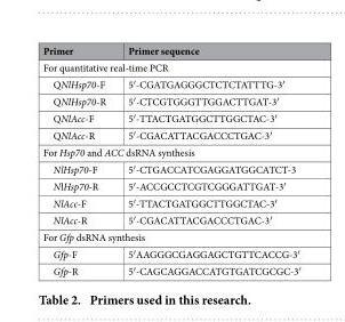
<table><thead><tr><td>Primer</td><td>Primer sequence</td></tr></thead><tbody><tr><td colspan="2">For quantitative real-time PCR</td></tr><tr><td>QNlHsp70-F</td><td>5′ -CGATGAGGGCTCTCTATTTG-3′</td></tr><tr><td>QNlHsp70-R</td><td>5′ -CTCGTGGGTTGGACTTGAT-3′</td></tr><tr><td>QNlAcc-F</td><td>5′ -TTACTGATGGCTTGGCTAC-3′</td></tr><tr><td>QNlAcc-R</td><td>5′ -CGACATTACGACCCTGAC-3′</td></tr><tr><td colspan="2">For Hsp70 and ACC dsRNA synthesis</td></tr><tr><td>NlHsp70-F</td><td>5′ -CTGACCATCGAGGATGGCATCT-3</td></tr><tr><td>NlHsp70-R</td><td>5′ -ACCGCCTCGTCGGGATTGAT-3′</td></tr><tr><td>NlAcc-F</td><td>5′ -TTACTGATGGCTTGGCTAC-3′</td></tr><tr><td>NlAcc-R</td><td>5′ -CGACATTACGACCCTGAC-3′</td></tr><tr><td colspan="2">For Gfp dsRNA synthesis</td></tr><tr><td>Gfp-F</td><td>5′ AAGGGCGAGGAGCTGTTCACCG-3′</td></tr><tr><td>Gfp-R</td><td>5′ -CAGCAGGACCATGTGATCGCGC-3′</td></tr></tbody></table>